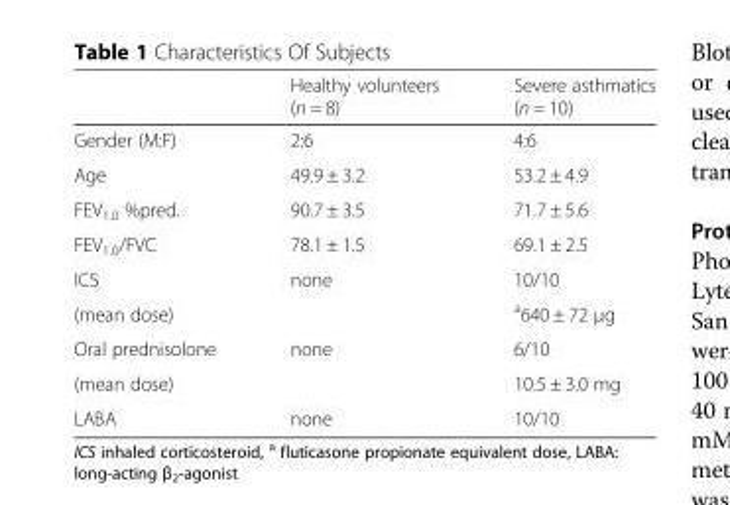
<table><thead><tr><td></td><td>Healthy volunteers (n = 8)</td><td>Severe asthmatics (n = 10)</td></tr></thead><tbody><tr><td>Gender (M:F)</td><td>2:6</td><td>4:6</td></tr><tr><td>Age</td><td>49.9 ± 3.2</td><td>53.2 ± 4.9</td></tr><tr><td>FEV<sub>1.0</sub> %pred.</td><td>90.7 ± 3.5</td><td>71.7 ± 5.6</td></tr><tr><td>FEV<sub>1.0</sub>/FVC</td><td>78.1 ± 1.5</td><td>69.1 ± 2.5</td></tr><tr><td>ICS</td><td>none</td><td>10/10</td></tr><tr><td>(mean dose)</td><td></td><td><sup>a</sup>640 ± 72 μg</td></tr><tr><td>Oral prednisolone</td><td>none</td><td>6/10</td></tr><tr><td>(mean dose)</td><td></td><td>10.5 ± 3.0 mg</td></tr><tr><td>LABA</td><td>none</td><td>10/10</td></tr></tbody></table>